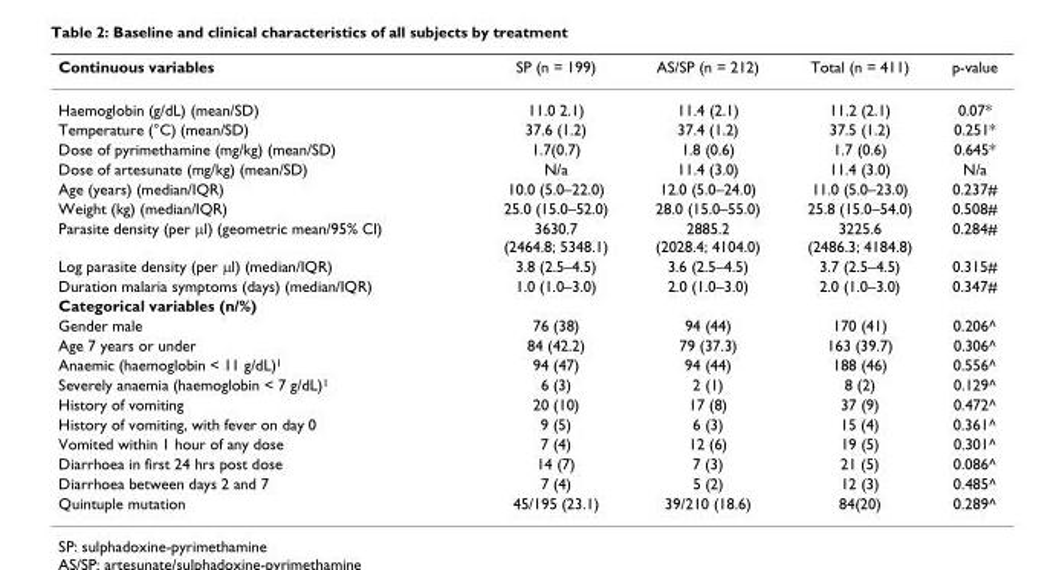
<table><thead><tr><td>Continuous variables</td><td>SP (n = 199)</td><td>AS/SP (n = 212)</td><td>Total (n = 411)</td><td>p-value</td></tr></thead><tbody><tr><td>Haemoglobin (g/dL) (mean/SD)</td><td>11.0 2.1)</td><td>11.4 (2.1)</td><td>11.2 (2.1)</td><td>0.07*</td></tr><tr><td>Temperature (°C) (mean/SD)</td><td>37.6 (1.2)</td><td>37.4 (1.2)</td><td>37.5 (1.2)</td><td>0.251*</td></tr><tr><td>Dose of pyrimethamine (mg/kg) (mean/SD)</td><td>1.7(0.7)</td><td>1.8 (0.6)</td><td>1.7 (0.6)</td><td>0.645*</td></tr><tr><td>Dose of artesunate (mg/kg) (mean/SD)</td><td>N/a</td><td>11.4 (3.0)</td><td>11.4 (3.0)</td><td>N/a</td></tr><tr><td>Age (years) (median/IQR)</td><td>10.0 (5.0–22.0)</td><td>12.0 (5.0–24.0)</td><td>11.0 (5.0–23.0)</td><td>0.237#</td></tr><tr><td>Weight (kg) (median/IQR)</td><td>25.0 (15.0–52.0)</td><td>28.0 (15.0–55.0)</td><td>25.8 (15.0–54.0)</td><td>0.508#</td></tr><tr><td>Parasite density (per μl) (geometric mean/95% CI)</td><td>3630.7 (2464.8; 5348.1)</td><td>2885.2 (2028.4; 4104.0)</td><td>3225.6 (2486.3; 4184.8)</td><td>0.284#</td></tr><tr><td>Log parasite density (per μl) (median/IQR)</td><td>3.8 (2.5–4.5)</td><td>3.6 (2.5–4.5)</td><td>3.7 (2.5–4.5)</td><td>0.315#</td></tr><tr><td>Duration malaria symptoms (days) (median/IQR)</td><td>1.0 (1.0–3.0)</td><td>2.0 (1.0–3.0)</td><td>2.0 (1.0–3.0)</td><td>0.347#</td></tr><tr><td colspan="5">Categorical variables (n/%)</td></tr><tr><td>Gender male</td><td>76 (38)</td><td>94 (44)</td><td>170 (41)</td><td>0.206^</td></tr><tr><td>Age 7 years or under</td><td>84 (42.2)</td><td>79 (37.3)</td><td>163 (39.7)</td><td>0.306^</td></tr><tr><td>Anaemic (haemoglobin &lt; 11 g/dL)<sup>1</sup></td><td>94 (47)</td><td>94 (44)</td><td>188 (46)</td><td>0.556^</td></tr><tr><td>Severely anaemia (haemoglobin &lt; 7 g/dL)<sup>1</sup></td><td>6 (3)</td><td>2 (1)</td><td>8 (2)</td><td>0.129^</td></tr><tr><td>History of vomiting</td><td>20 (10)</td><td>17 (8)</td><td>37 (9)</td><td>0.472^</td></tr><tr><td>History of vomiting, with fever on day 0</td><td>9 (5)</td><td>6 (3)</td><td>15 (4)</td><td>0.361^</td></tr><tr><td>Vomited within 1 hour of any dose</td><td>7 (4)</td><td>12 (6)</td><td>19 (5)</td><td>0.301^</td></tr><tr><td>Diarrhoea in first 24 hrs post dose</td><td>14 (7)</td><td>7 (3)</td><td>21 (5)</td><td>0.086^</td></tr><tr><td>Diarrhoea between days 2 and 7</td><td>7 (4)</td><td>5 (2)</td><td>12 (3)</td><td>0.485^</td></tr><tr><td>Quintuple mutation</td><td>45/195 (23.1)</td><td>39/210 (18.6)</td><td>84(20)</td><td>0.289^</td></tr></tbody></table>